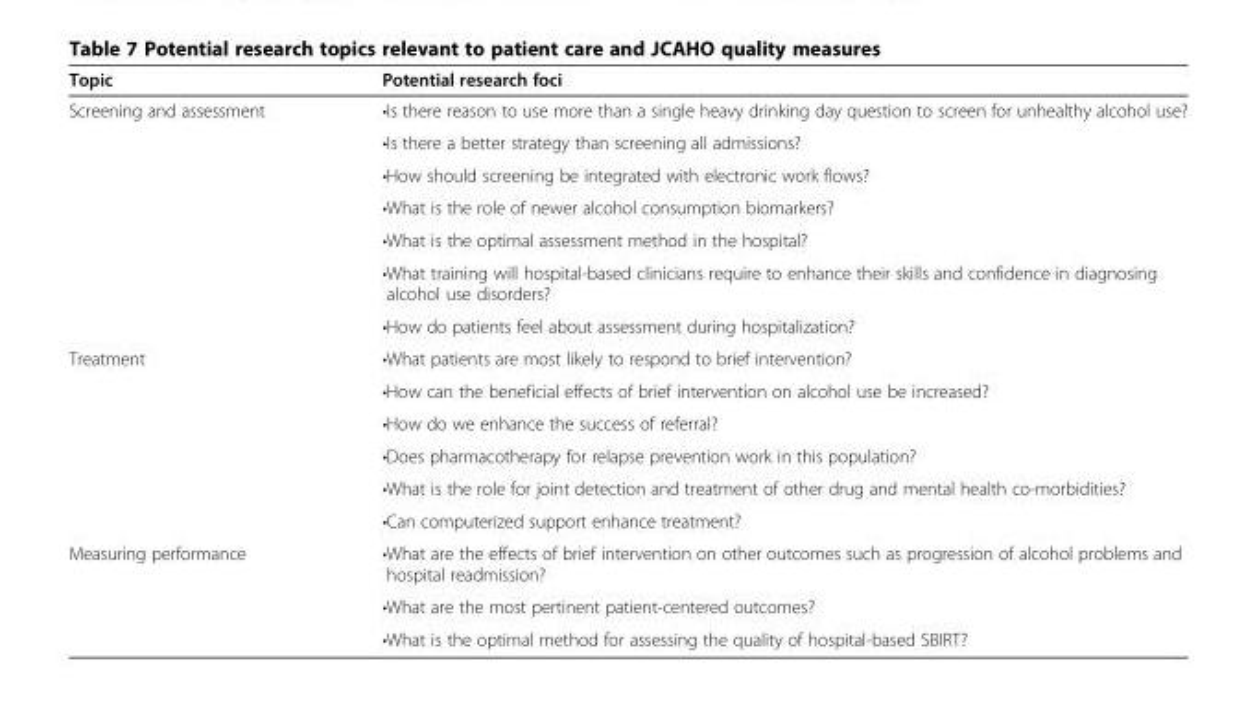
<table><thead><tr><td>Topic</td><td>Potential research foci</td></tr></thead><tbody><tr><td rowspan="7">Screening and assessment</td><td>•Is there reason to use more than a single heavy drinking day question to screen for unhealthy alcohol use?</td></tr><tr><td>•Is there a better strategy than screening all admissions?</td></tr><tr><td>•How should screening be integrated with electronic work flows?</td></tr><tr><td>•What is the role of newer alcohol consumption biomarkers?</td></tr><tr><td>•What is the optimal assessment method in the hospital?</td></tr><tr><td>•What training will hospital-based clinicians require to enhance their skills and confidence in diagnosing alcohol use disorders?</td></tr><tr><td>•How do patients feel about assessment during hospitalization?</td></tr><tr><td rowspan="6">Treatment</td><td>•What patients are most likely to respond to brief intervention?</td></tr><tr><td>•How can the beneficial effects of brief intervention on alcohol use be increased?</td></tr><tr><td>•How do we enhance the success of referral?</td></tr><tr><td>•Does pharmacotherapy for relapse prevention work in this population?</td></tr><tr><td>•What is the role for joint detection and treatment of other drug and mental health co-morbidities?</td></tr><tr><td>•Can computerized support enhance treatment?</td></tr><tr><td rowspan="3">Measuring performance</td><td>•What are the effects of brief intervention on other outcomes such as progression of alcohol problems and hospital readmission?</td></tr><tr><td>•What are the most pertinent patient-centered outcomes?</td></tr><tr><td>•What is the optimal method for assessing the quality of hospital-based SBIRT?</td></tr></tbody></table>